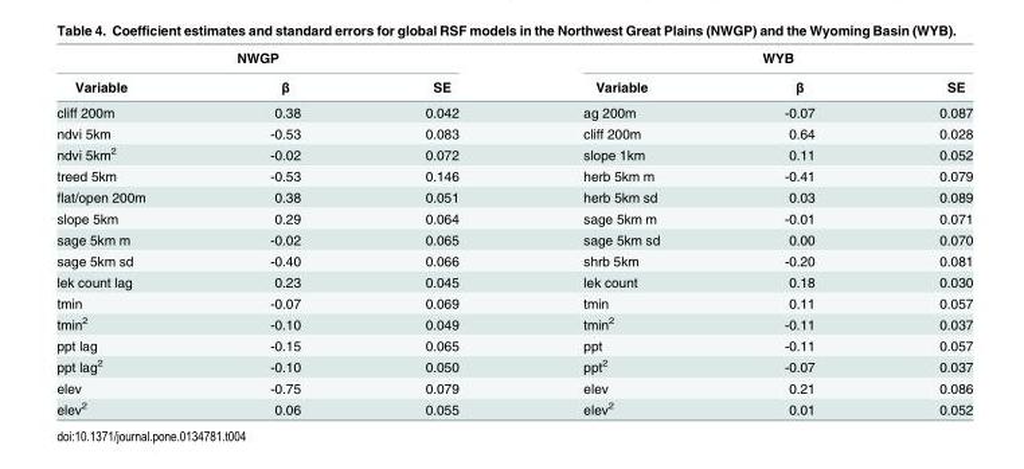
<table><thead><tr><td colspan="3">NWGP</td><td colspan="3">WYB</td></tr><tr><td>Variable</td><td>β</td><td>SE</td><td>Variable</td><td>β</td><td>SE</td></tr></thead><tbody><tr><td>cliff 200m</td><td>0.38</td><td>0.042</td><td>ag 200m</td><td>-0.07</td><td>0.087</td></tr><tr><td>ndvi 5km</td><td>-0.53</td><td>0.083</td><td>cliff 200m</td><td>0.64</td><td>0.028</td></tr><tr><td>ndvi 5km<sup>2</sup></td><td>-0.02</td><td>0.072</td><td>slope 1km</td><td>0.11</td><td>0.052</td></tr><tr><td>treed 5km</td><td>-0.53</td><td>0.146</td><td>herb 5km m</td><td>-0.41</td><td>0.079</td></tr><tr><td>flat/open 200m</td><td>0.38</td><td>0.051</td><td>herb 5km sd</td><td>0.03</td><td>0.089</td></tr><tr><td>slope 5km</td><td>0.29</td><td>0.064</td><td>sage 5km m</td><td>-0.01</td><td>0.071</td></tr><tr><td>sage 5km m</td><td>-0.02</td><td>0.065</td><td>sage 5km sd</td><td>0.00</td><td>0.070</td></tr><tr><td>sage 5km sd</td><td>-0.40</td><td>0.066</td><td>shrb 5km</td><td>-0.20</td><td>0.081</td></tr><tr><td>lek count lag</td><td>0.23</td><td>0.045</td><td>lek count</td><td>0.18</td><td>0.030</td></tr><tr><td>tmin</td><td>-0.07</td><td>0.069</td><td>tmin</td><td>0.11</td><td>0.057</td></tr><tr><td>tmin<sup>2</sup></td><td>-0.10</td><td>0.049</td><td>tmin<sup>2</sup></td><td>-0.11</td><td>0.037</td></tr><tr><td>ppt lag</td><td>-0.15</td><td>0.065</td><td>ppt</td><td>-0.11</td><td>0.057</td></tr><tr><td>ppt lag<sup>2</sup></td><td>-0.10</td><td>0.050</td><td>ppt<sup>2</sup></td><td>-0.07</td><td>0.037</td></tr><tr><td>elev</td><td>-0.75</td><td>0.079</td><td>elev</td><td>0.21</td><td>0.086</td></tr><tr><td>elev<sup>2</sup></td><td>0.06</td><td>0.055</td><td>elev<sup>2</sup></td><td>0.01</td><td>0.052</td></tr></tbody></table>